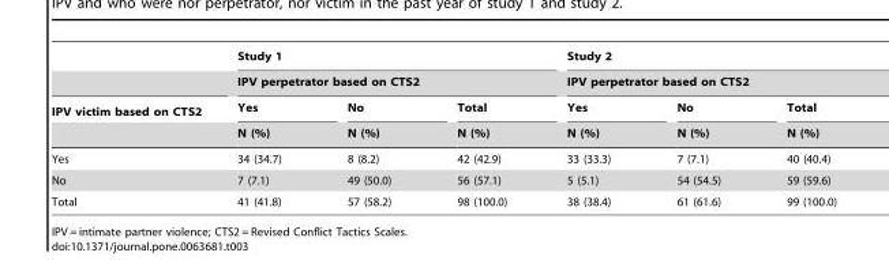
<table><thead><tr><td rowspan="4">IPV victim based on CTS2</td><td rowspan="2" colspan="3">Study 1 IPV perpetrator based on CTS2</td><td rowspan="2" colspan="3">Study 2 IPV perpetrator based on CTS2</td></tr><tr></tr><tr><td rowspan="2">Yes N (%)</td><td rowspan="2">No N (%)</td><td rowspan="2">Total N (%)</td><td rowspan="2">Yes N (%)</td><td rowspan="2">No N (%)</td><td rowspan="2">Total N (%)</td></tr><tr></tr></thead><tbody><tr><td>Yes</td><td>34 (34.7)</td><td>8 (8.2)</td><td>42 (42.9)</td><td>33 (33.3)</td><td>7 (7.1)</td><td>40 (40.4)</td></tr><tr><td>No</td><td>7 (7.1)</td><td>49 (50.0)</td><td>56 (57.1)</td><td>5 (5.1)</td><td>54 (54.5)</td><td>59 (59.6)</td></tr><tr><td>Total</td><td>41 (41.8)</td><td>57 (58.2)</td><td>98 (100.0)</td><td>38 (38.4)</td><td>61 (61.6)</td><td>99 (100.0)</td></tr></tbody></table>